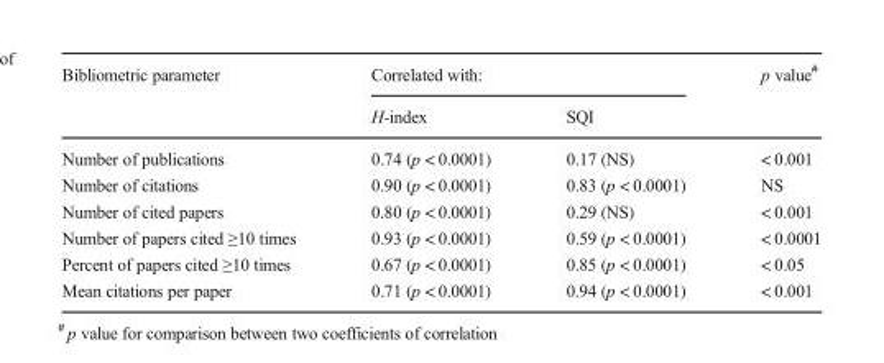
<table><thead><tr><td rowspan="2">Bibliometric parameter</td><td colspan="2">Correlated with:</td><td rowspan="2">p value<sup>#</sup></td></tr><tr><td>H-index</td><td>SQI</td></tr></thead><tbody><tr><td>Number of publications</td><td>0.74 (p &lt; 0.0001)</td><td>0.17 (NS)</td><td>&lt; 0.001</td></tr><tr><td>Number of citations</td><td>0.90 (p &lt; 0.0001)</td><td>0.83 (p &lt; 0.0001)</td><td>NS</td></tr><tr><td>Number of cited papers</td><td>0.80 (p &lt; 0.0001)</td><td>0.29 (NS)</td><td>&lt; 0.001</td></tr><tr><td>Number of papers cited ≥10 times</td><td>0.93 (p &lt; 0.0001)</td><td>0.59 (p &lt; 0.0001)</td><td>&lt; 0.0001</td></tr><tr><td>Percent of papers cited ≥10 times</td><td>0.67 (p &lt; 0.0001)</td><td>0.85 (p &lt; 0.0001)</td><td>&lt; 0.05</td></tr><tr><td>Mean citations per paper</td><td>0.71 (p &lt; 0.0001)</td><td>0.94 (p &lt; 0.0001)</td><td>&lt; 0.001</td></tr></tbody></table>